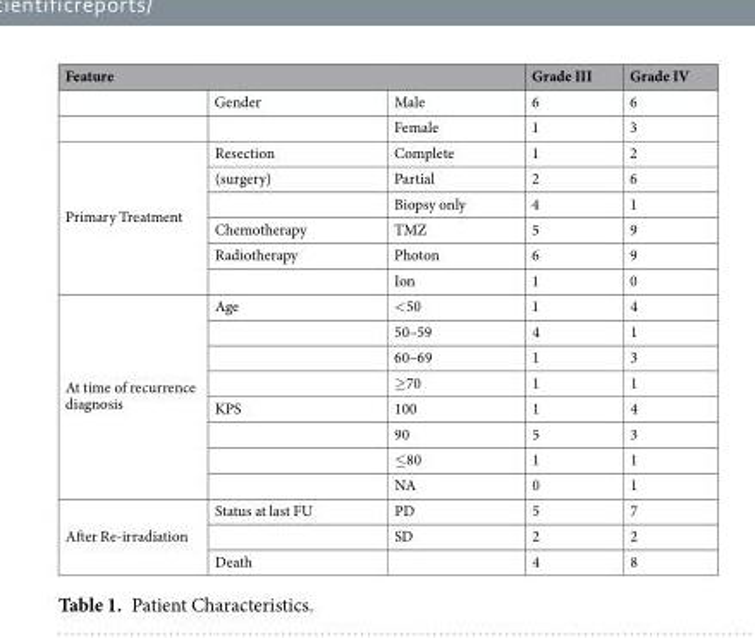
<table><thead><tr><td colspan="3">Feature</td><td rowspan="2">Grade III 6</td><td rowspan="2">Grade IV 6</td></tr><tr><td></td><td>Gender</td><td>Male</td></tr></thead><tbody><tr><td></td><td></td><td>Female</td><td>1</td><td>3</td></tr><tr><td rowspan="6">Primary Treatment</td><td>Resection</td><td>Complete</td><td>1</td><td>2</td></tr><tr><td>(surgery)</td><td>Partial</td><td>2</td><td>6</td></tr><tr><td></td><td>Biopsy only</td><td>4</td><td>1</td></tr><tr><td>Chemotherapy</td><td>TMZ</td><td>5</td><td>9</td></tr><tr><td>Radiotherapy</td><td>Photon</td><td>6</td><td>9</td></tr><tr><td></td><td>Ion</td><td>1</td><td>0</td></tr><tr><td rowspan="8">At time of recurrence diagnosis</td><td>Age</td><td>&lt;50</td><td>1</td><td>4</td></tr><tr><td></td><td>50–59</td><td>4</td><td>1</td></tr><tr><td></td><td>60–69</td><td>1</td><td>3</td></tr><tr><td></td><td>≥70</td><td>1</td><td>1</td></tr><tr><td>KPS</td><td>100</td><td>1</td><td>4</td></tr><tr><td></td><td>90</td><td>5</td><td>3</td></tr><tr><td></td><td>≤80</td><td>1</td><td>1</td></tr><tr><td></td><td>NA</td><td>0</td><td>1</td></tr><tr><td rowspan="3">After Re-irradiation</td><td>Status at last FU</td><td>PD</td><td>5</td><td>7</td></tr><tr><td></td><td>SD</td><td>2</td><td>2</td></tr><tr><td>Death</td><td></td><td>4</td><td>8</td></tr></tbody></table>